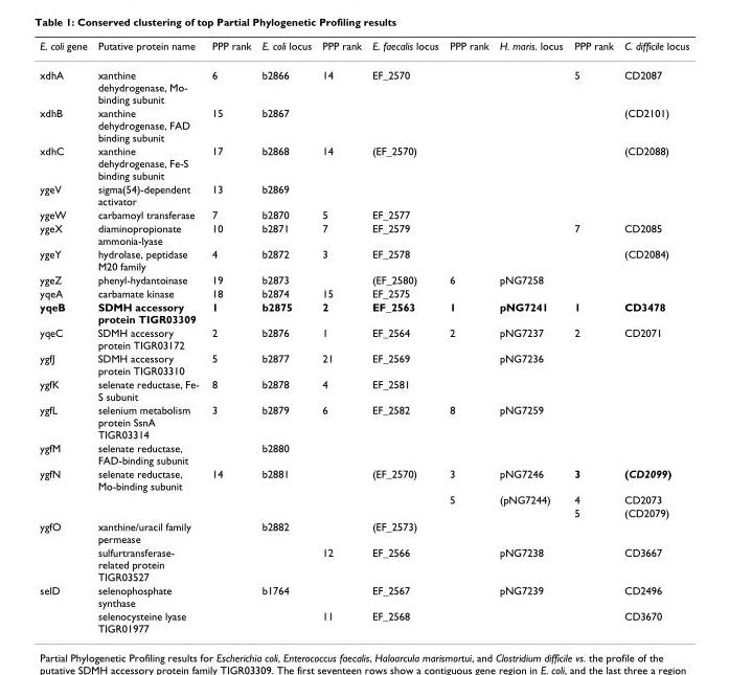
<table><thead><tr><td>E. coli gene</td><td>Putative protein name</td><td>PPP rank</td><td>E. coli locus</td><td>PPP rank</td><td>E. faecalis locus</td><td>PPP rank</td><td>H. maris. locus</td><td>PPP rank</td><td>C. difficile locus</td></tr></thead><tbody><tr><td>xdhA</td><td>xanthine dehydrogenase, Mo- binding subunit</td><td>6</td><td>b2866</td><td>14</td><td>EF_2570</td><td></td><td></td><td>5</td><td>CD2087</td></tr><tr><td>xdhB</td><td>xanthine dehydrogenase, FAD binding subunit</td><td>15</td><td>b2867</td><td></td><td></td><td></td><td></td><td></td><td>(CD2101)</td></tr><tr><td>xdhC</td><td>xanthine dehydrogenase, Fe-S binding subunit</td><td>17</td><td>b2868</td><td>14</td><td>(EF_2570)</td><td></td><td></td><td></td><td>(CD2088)</td></tr><tr><td>ygeV</td><td>sigma(54)-dependent activator</td><td>13</td><td>b2869</td><td></td><td></td><td></td><td></td><td></td><td></td></tr><tr><td>ygeW</td><td>carbamoyl transferase</td><td>7</td><td>b2870</td><td>5</td><td>EF_2577</td><td></td><td></td><td></td><td></td></tr><tr><td>ygeX</td><td>diaminopropionate ammonia-lyase</td><td>10</td><td>b2871</td><td>7</td><td>EF_2579</td><td></td><td></td><td>7</td><td>CD2085</td></tr><tr><td>ygeY</td><td>hydrolase, peptidase M20 family</td><td>4</td><td>b2872</td><td>3</td><td>EF_2578</td><td></td><td></td><td></td><td>(CD2084)</td></tr><tr><td>ygeZ</td><td>phenyl-hydantoinase</td><td>19</td><td>b2873</td><td></td><td>(EF_2580)</td><td>6</td><td>pNG7258</td><td></td><td></td></tr><tr><td>yqeA</td><td>carbamate kinase</td><td>18</td><td>b2874</td><td>15</td><td>EF_2575</td><td></td><td></td><td></td><td></td></tr><tr><td>yqeB</td><td>SDMH accessory protein TIGR03309</td><td>1</td><td>b2875</td><td>2</td><td>EF_2563</td><td>1</td><td>pNG7241</td><td>1</td><td>CD3478</td></tr><tr><td>yqeC</td><td>SDMH accessory protein TIGR03172</td><td>2</td><td>b2876</td><td>1</td><td>EF_2564</td><td>2</td><td>pNG7237</td><td>2</td><td>CD2071</td></tr><tr><td>ygfJ</td><td>SDMH accessory protein TIGR03310</td><td>5</td><td>b2877</td><td>21</td><td>EF_2569</td><td></td><td>pNG7236</td><td></td><td></td></tr><tr><td>ygfK</td><td>selenate reductase, Fe- S subunit</td><td>8</td><td>b2878</td><td>4</td><td>EF_2581</td><td></td><td></td><td></td><td></td></tr><tr><td>ygfL</td><td>selenium metabolism protein SsnA TIGR03314</td><td>3</td><td>b2879</td><td>6</td><td>EF_2582</td><td>8</td><td>pNG7259</td><td></td><td></td></tr><tr><td>ygfM</td><td>selenate reductase, FAD-binding subunit</td><td></td><td>b2880</td><td></td><td></td><td></td><td></td><td></td><td></td></tr><tr><td>ygfN</td><td>selenate reductase, Mo-binding subunit</td><td>14</td><td>b2881</td><td></td><td>(EF_2570)</td><td>3</td><td>pNG7246</td><td>3</td><td>(CD2099)</td></tr><tr><td colspan="6"></td><td>5</td><td>(pNG7244)</td><td>4</td><td>CD2073</td></tr><tr><td colspan="8"></td><td>5</td><td>(CD2079)</td></tr><tr><td rowspan="2">ygfO</td><td>xanthine/uracil family permease</td><td></td><td>b2882</td><td></td><td>(EF_2573)</td><td></td><td></td><td></td><td></td></tr><tr><td>sulfurtransferase- related protein TIGR03527</td><td></td><td></td><td>12</td><td>EF_2566</td><td></td><td>pNG7238</td><td></td><td>CD3667</td></tr><tr><td rowspan="2">selD</td><td>selenophosphate synthase</td><td></td><td>b1764</td><td></td><td>EF_2567</td><td></td><td>pNG7239</td><td></td><td>CD2496</td></tr><tr><td>selenocysteine lyase TIGR01977</td><td></td><td></td><td>11</td><td>EF_2568</td><td></td><td></td><td></td><td>CD3670</td></tr></tbody></table>